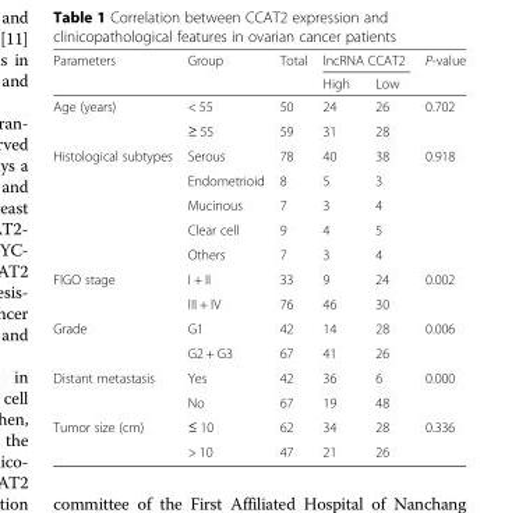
<table><thead><tr><td rowspan="2">Parameters</td><td rowspan="2">Group</td><td rowspan="2">Total</td><td colspan="2">lncRNA CCAT2</td><td rowspan="2">P-value</td></tr><tr><td>High</td><td>Low</td></tr></thead><tbody><tr><td rowspan="2">Age (years)</td><td>&lt; 55</td><td>50</td><td>24</td><td>26</td><td rowspan="2">0.702</td></tr><tr><td>≥ 55</td><td>59</td><td>31</td><td>28</td></tr><tr><td rowspan="5">Histological subtypes</td><td>Serous</td><td>78</td><td>40</td><td>38</td><td rowspan="5">0.918</td></tr><tr><td>Endometrioid</td><td>8</td><td>5</td><td>3</td></tr><tr><td>Mucinous</td><td>7</td><td>3</td><td>4</td></tr><tr><td>Clear cell</td><td>9</td><td>4</td><td>5</td></tr><tr><td>Others</td><td>7</td><td>3</td><td>4</td></tr><tr><td rowspan="2">FIGO stage</td><td>I + II</td><td>33</td><td>9</td><td>24</td><td rowspan="2">0.002</td></tr><tr><td>III + IV</td><td>76</td><td>46</td><td>30</td></tr><tr><td rowspan="2">Grade</td><td>G1</td><td>42</td><td>14</td><td>28</td><td rowspan="2">0.006</td></tr><tr><td>G2 + G3</td><td>67</td><td>41</td><td>26</td></tr><tr><td rowspan="2">Distant metastasis</td><td>Yes</td><td>42</td><td>36</td><td>6</td><td rowspan="2">0.000</td></tr><tr><td>No</td><td>67</td><td>19</td><td>48</td></tr><tr><td rowspan="2">Tumor size (cm)</td><td>≤ 10</td><td>62</td><td>34</td><td>28</td><td rowspan="2">0.336</td></tr><tr><td>&gt; 10</td><td>47</td><td>21</td><td>26</td></tr></tbody></table>